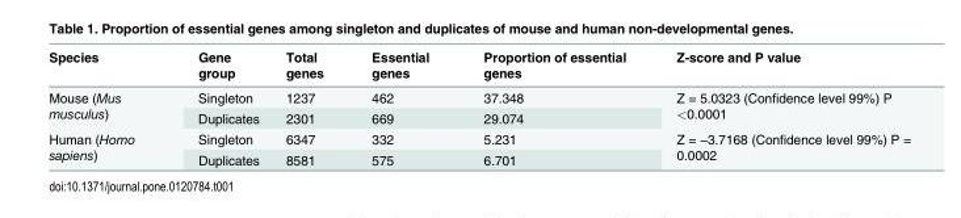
<table><thead><tr><td>Species</td><td>Gene group</td><td>Total genes</td><td>Essential genes</td><td>Proportion of essential genes</td><td>Z-score and P value</td></tr></thead><tbody><tr><td rowspan="2">Mouse (Mus musculus)</td><td>Singleton</td><td>1237</td><td>462</td><td>37.348</td><td rowspan="2">Z = 5.0323 (Confidence level 99%) P &lt;0.0001</td></tr><tr><td>Duplicates</td><td>2301</td><td>669</td><td>29.074</td></tr><tr><td rowspan="2">Human (Homo sapiens)</td><td>Singleton</td><td>6347</td><td>332</td><td>5.231</td><td rowspan="2">Z = −3.7168 (Confidence level 99%) P = 0.0002</td></tr><tr><td>Duplicates</td><td>8581</td><td>575</td><td>6.701</td></tr></tbody></table>